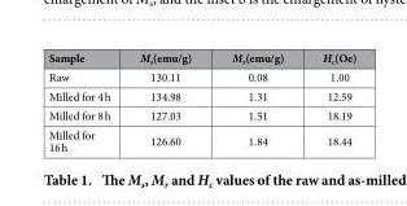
<table><thead><tr><td>Sample</td><td>M<sub>s</sub>(emu/g)</td><td>M<sub>r</sub>(emu/g)</td><td>H<sub>c</sub>(Oe)</td></tr></thead><tbody><tr><td>Raw</td><td>130.11</td><td>0.08</td><td>1.00</td></tr><tr><td>Milled for 4 h</td><td>134.98</td><td>1.31</td><td>12.59</td></tr><tr><td>Milled for 8 h</td><td>127.03</td><td>1.51</td><td>18.19</td></tr><tr><td>Milled for 16 h</td><td>126.60</td><td>1.84</td><td>18.44</td></tr></tbody></table>